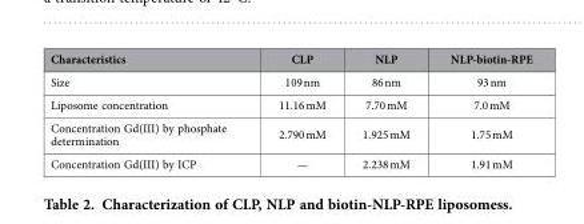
<table><thead><tr><td>Characteristics</td><td>CLP</td><td>NLP</td><td>NLP-biotin-RPE</td></tr></thead><tbody><tr><td>Size</td><td>109 nm</td><td>86 nm</td><td>93 nm</td></tr><tr><td>Liposome concentration</td><td>11.16 mM</td><td>7.70 mM</td><td>7.0 mM</td></tr><tr><td>Concentration Gd(III) by phosphate determination</td><td>2.790 mM</td><td>1.925 mM</td><td>1.75 mM</td></tr><tr><td>Concentration Gd(III) by ICP</td><td>—</td><td>2.238 mM</td><td>1.91 mM</td></tr></tbody></table>